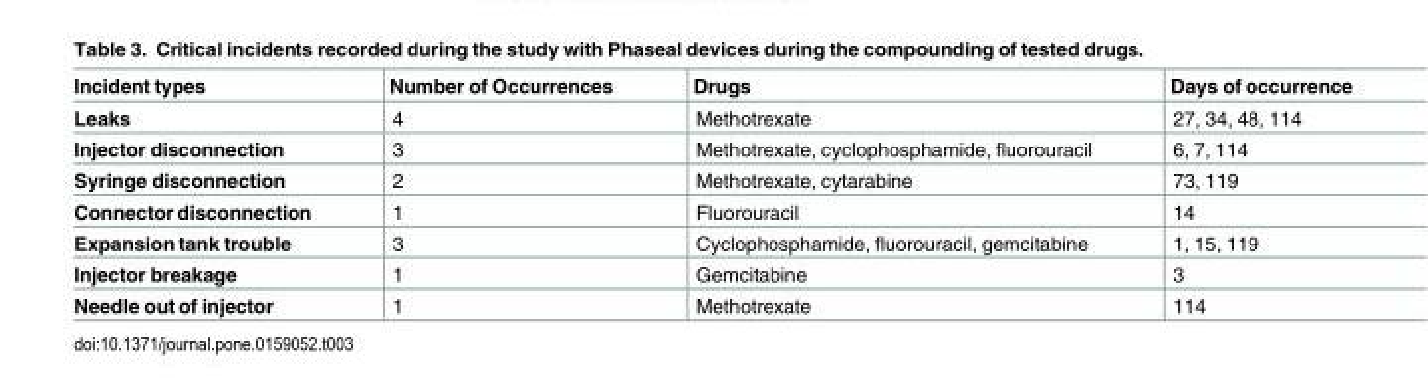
<table><thead><tr><td>Incident types</td><td>Number of Occurrences</td><td>Drugs</td><td>Days of occurrence</td></tr></thead><tbody><tr><td>Leaks</td><td>4</td><td>Methotrexate</td><td>27, 34, 48, 114</td></tr><tr><td>Injector disconnection</td><td>3</td><td>Methotrexate, cyclophosphamide, fluorouracil</td><td>6, 7, 114</td></tr><tr><td>Syringe disconnection</td><td>2</td><td>Methotrexate, cytarabine</td><td>73, 119</td></tr><tr><td>Connector disconnection</td><td>1</td><td>Fluorouracil</td><td>14</td></tr><tr><td>Expansion tank trouble</td><td>3</td><td>Cyclophosphamide, fluorouracil, gemcitabine</td><td>1, 15, 119</td></tr><tr><td>Injector breakage</td><td>1</td><td>Gemcitabine</td><td>3</td></tr><tr><td>Needle out of injector</td><td>1</td><td>Methotrexate</td><td>114</td></tr></tbody></table>